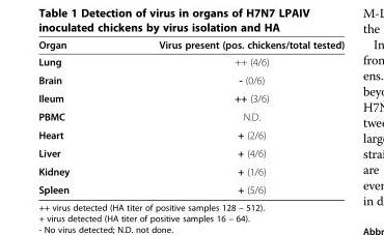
<table><thead><tr><td>Organ</td><td>Virus present (pos. chickens/total tested)</td></tr></thead><tbody><tr><td>Lung</td><td>++ (4/6)</td></tr><tr><td>Brain</td><td>- (0/6)</td></tr><tr><td>Ileum</td><td>++ (3/6)</td></tr><tr><td>PBMC</td><td>N.D.</td></tr><tr><td>Heart</td><td>+ (2/6)</td></tr><tr><td>Liver</td><td>+ (4/6)</td></tr><tr><td>Kidney</td><td>+ (1/6)</td></tr><tr><td>Spleen</td><td>+ (5/6)</td></tr></tbody></table>